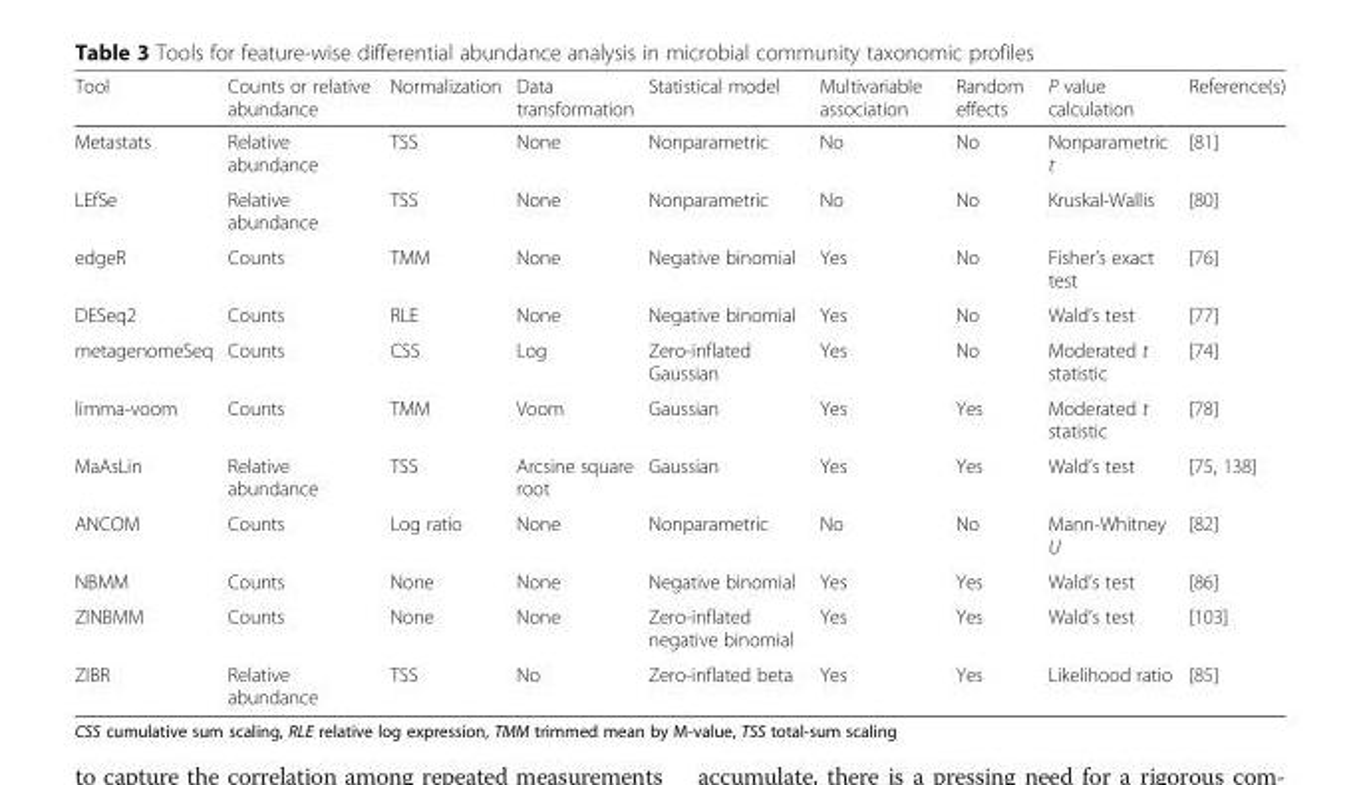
<table><thead><tr><td>Tool</td><td>Counts or relative abundance</td><td>Normalization</td><td>Data transformation</td><td>Statistical model</td><td>Multivariable association</td><td>Random effects</td><td>P value calculation</td><td>Reference(s)</td></tr></thead><tbody><tr><td>Metastats</td><td>Relative abundance</td><td>TSS</td><td>None</td><td>Nonparametric</td><td>No</td><td>No</td><td>Nonparametric t</td><td>[81]</td></tr><tr><td>LEfSe</td><td>Relative abundance</td><td>TSS</td><td>None</td><td>Nonparametric</td><td>No</td><td>No</td><td>Kruskal-Wallis</td><td>[80]</td></tr><tr><td>edgeR</td><td>Counts</td><td>TMM</td><td>None</td><td>Negative binomial</td><td>Yes</td><td>No</td><td>Fisher’s exact test</td><td>[76]</td></tr><tr><td>DESeq2</td><td>Counts</td><td>RLE</td><td>None</td><td>Negative binomial</td><td>Yes</td><td>No</td><td>Wald’s test</td><td>[77]</td></tr><tr><td>metagenomeSeq</td><td>Counts</td><td>CSS</td><td>Log</td><td>Zero-inflated Gaussian</td><td>Yes</td><td>No</td><td>Moderated t statistic</td><td>[74]</td></tr><tr><td>limma-voom</td><td>Counts</td><td>TMM</td><td>Voom</td><td>Gaussian</td><td>Yes</td><td>Yes</td><td>Moderated t statistic</td><td>[78]</td></tr><tr><td>MaAsLin</td><td>Relative abundance</td><td>TSS</td><td>Arcsine square root</td><td>Gaussian</td><td>Yes</td><td>Yes</td><td>Wald’s test</td><td>[75, 138]</td></tr><tr><td>ANCOM</td><td>Counts</td><td>Log ratio</td><td>None</td><td>Nonparametric</td><td>No</td><td>No</td><td>Mann-Whitney U</td><td>[82]</td></tr><tr><td>NBMM</td><td>Counts</td><td>None</td><td>None</td><td>Negative binomial</td><td>Yes</td><td>Yes</td><td>Wald’s test</td><td>[86]</td></tr><tr><td>ZINBMM</td><td>Counts</td><td>None</td><td>None</td><td>Zero-inflated negative binomial</td><td>Yes</td><td>Yes</td><td>Wald’s test</td><td>[103]</td></tr><tr><td>ZIBR</td><td>Relative abundance</td><td>TSS</td><td>No</td><td>Zero-inflated beta</td><td>Yes</td><td>Yes</td><td>Likelihood ratio</td><td>[85]</td></tr></tbody></table>